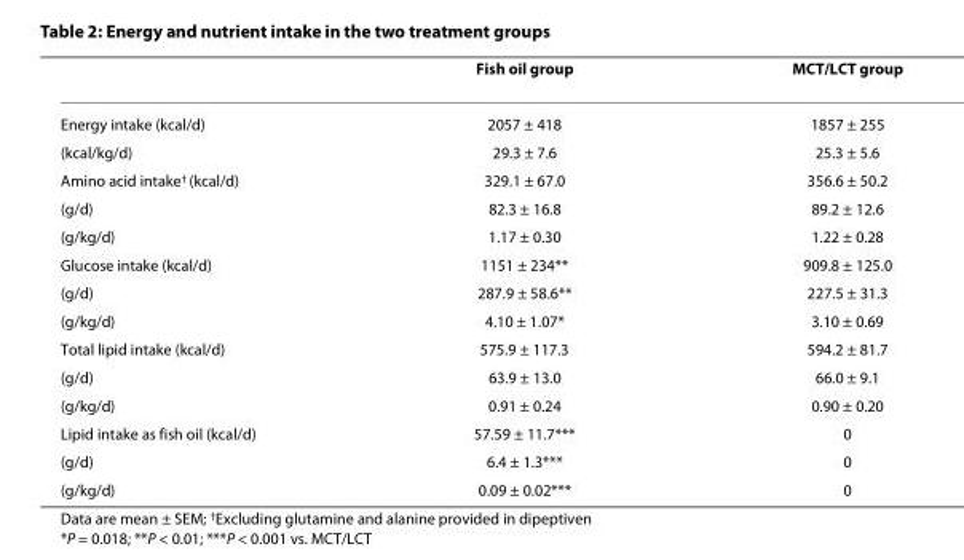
<table><thead><tr><td></td><td>Fish oil group</td><td>MCT/LCT group</td></tr></thead><tbody><tr><td>Energy intake (kcal/d)</td><td>2057 ± 418</td><td>1857 ± 255</td></tr><tr><td>(kcal/kg/d)</td><td>29.3 ± 7.6</td><td>25.3 ± 5.6</td></tr><tr><td>Amino acid intake<sup>†</sup> (kcal/d)</td><td>329.1 ± 67.0</td><td>356.6 ± 50.2</td></tr><tr><td>(g/d)</td><td>82.3 ± 16.8</td><td>89.2 ± 12.6</td></tr><tr><td>(g/kg/d)</td><td>1.17 ± 0.30</td><td>1.22 ± 0.28</td></tr><tr><td>Glucose intake (kcal/d)</td><td>1151 ± 234**</td><td>909.8 ± 125.0</td></tr><tr><td>(g/d)</td><td>287.9 ± 58.6**</td><td>227.5 ± 31.3</td></tr><tr><td>(g/kg/d)</td><td>4.10 ± 1.07*</td><td>3.10 ± 0.69</td></tr><tr><td>Total lipid intake (kcal/d)</td><td>575.9 ± 117.3</td><td>594.2 ± 81.7</td></tr><tr><td>(g/d)</td><td>63.9 ± 13.0</td><td>66.0 ± 9.1</td></tr><tr><td>(g/kg/d)</td><td>0.91 ± 0.24</td><td>0.90 ± 0.20</td></tr><tr><td>Lipid intake as fish oil (kcal/d)</td><td>57.59 ± 11.7***</td><td>0</td></tr><tr><td>(g/d)</td><td>6.4 ± 1.3***</td><td>0</td></tr><tr><td>(g/kg/d)</td><td>0.09 ± 0.02***</td><td>0</td></tr></tbody></table>